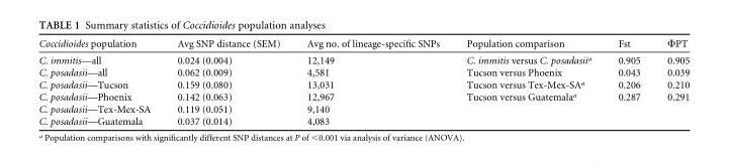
<table><thead><tr><td>Coccidioides population</td><td>Avg SNP distance (SEM)</td><td>Avg no. of lineage-specific SNPs</td><td>Population comparison</td><td>Fst</td><td>ΦPT</td></tr></thead><tbody><tr><td>C. immitis—all</td><td>0.024 (0.004)</td><td>12,149</td><td>C. immitis versus C. posadasii<sup>a</sup></td><td>0.905</td><td>0.905</td></tr><tr><td>C. posadasii—all</td><td>0.062 (0.009)</td><td>4,581</td><td>Tucson versus Phoenix</td><td>0.043</td><td>0.039</td></tr><tr><td>C. posadasii—Tucson</td><td>0.159 (0.080)</td><td>13,031</td><td>Tucson versus Tex-Mex-SA<sup>a</sup></td><td>0.206</td><td>0.210</td></tr><tr><td>C. posadasii—Phoenix</td><td>0.142 (0.063)</td><td>12,967</td><td>Tucson versus Guatemala<sup>a</sup></td><td>0.287</td><td>0.291</td></tr><tr><td>C. posadasii—Tex-Mex-SA</td><td>0.119 (0.051)</td><td>9,140</td><td></td><td></td><td></td></tr><tr><td>C. posadasii—Guatemala</td><td>0.037 (0.014)</td><td>4,083</td><td></td><td></td><td></td></tr></tbody></table>